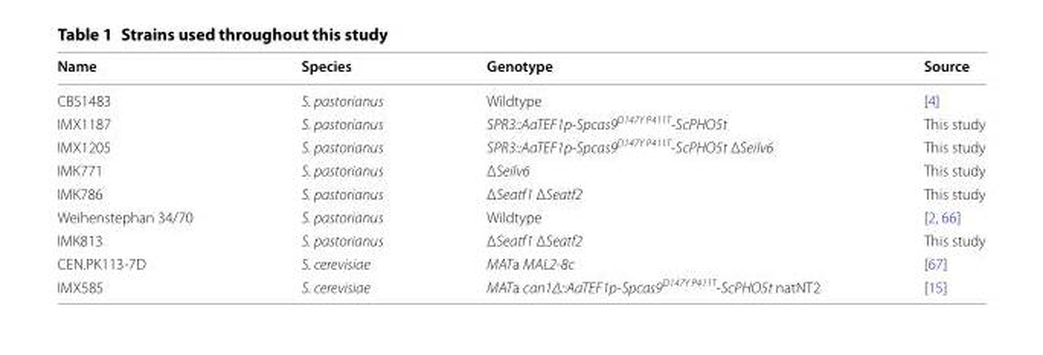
<table><thead><tr><td>Name</td><td>Species</td><td>Genotype</td><td>Source</td></tr></thead><tbody><tr><td>CBS1483</td><td>S. pastorianus</td><td>Wildtype</td><td>[4]</td></tr><tr><td>IMX1187</td><td>S. pastorianus</td><td>SPR3::AaTEF1p‑Spcas9<sup>D147Y P411T</sup>‑ScPHO5t</td><td>This study</td></tr><tr><td>IMX1205</td><td>S. pastorianus</td><td>SPR3::AaTEF1p‑Spcas9<sup>D147Y P411T</sup>‑ScPHO5t ΔSeilv6</td><td>This study</td></tr><tr><td>IMK771</td><td>S. pastorianus</td><td>ΔSeilv6</td><td>This study</td></tr><tr><td>IMK786</td><td>S. pastorianus</td><td>ΔSeatf1 ΔSeatf2</td><td>This study</td></tr><tr><td>Weihenstephan 34/70</td><td>S. pastorianus</td><td>Wildtype</td><td>[2, 66]</td></tr><tr><td>IMK813</td><td>S. pastorianus</td><td>ΔSeatf1 ΔSeatf2</td><td>This study</td></tr><tr><td>CEN.PK113‑7D</td><td>S. cerevisiae</td><td>MATa MAL2‑8c</td><td>[67]</td></tr><tr><td>IMX585</td><td>S. cerevisiae</td><td>MATa can1Δ::AaTEF1p‑Spcas9<sup>D147Y P411T</sup>‑ScPHO5t natNT2</td><td>[15]</td></tr></tbody></table>